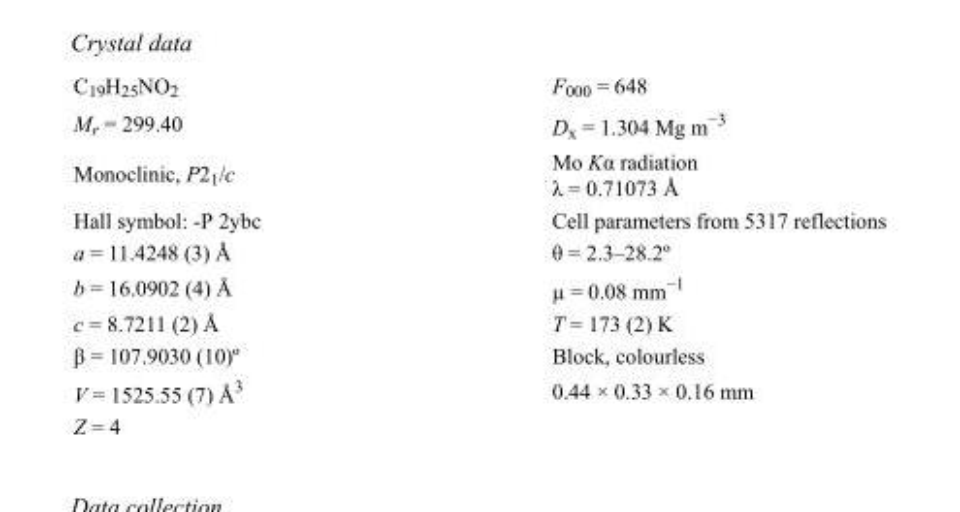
<table><tbody><tr><td>C<sub>19</sub>H<sub>25</sub>NO<sub>2</sub></td><td>F<sub>000</sub> = 648</td></tr><tr><td>M<sub>r</sub> = 299.40</td><td>D<sub>x</sub> = 1.304 Mg m<sup>−3</sup></td></tr><tr><td>Monoclinic, P2<sub>1</sub>/c</td><td>Mo Kα radiation λ = 0.71073 Å</td></tr><tr><td>Hall symbol: -P 2ybc</td><td>Cell parameters from 5317 reflections</td></tr><tr><td>a = 11.4248 (3) Å</td><td>θ = 2.3–28.2º</td></tr><tr><td>b = 16.0902 (4) Å</td><td>µ = 0.08 mm<sup>−1</sup></td></tr><tr><td>c = 8.7211 (2) Å</td><td>T = 173 (2) K</td></tr><tr><td>β = 107.9030 (10)º</td><td>Block, colourless</td></tr><tr><td>V = 1525.55 (7) Å<sup>3</sup></td><td>0.44 × 0.33 × 0.16 mm</td></tr><tr><td>Z = 4</td><td></td></tr></tbody></table>